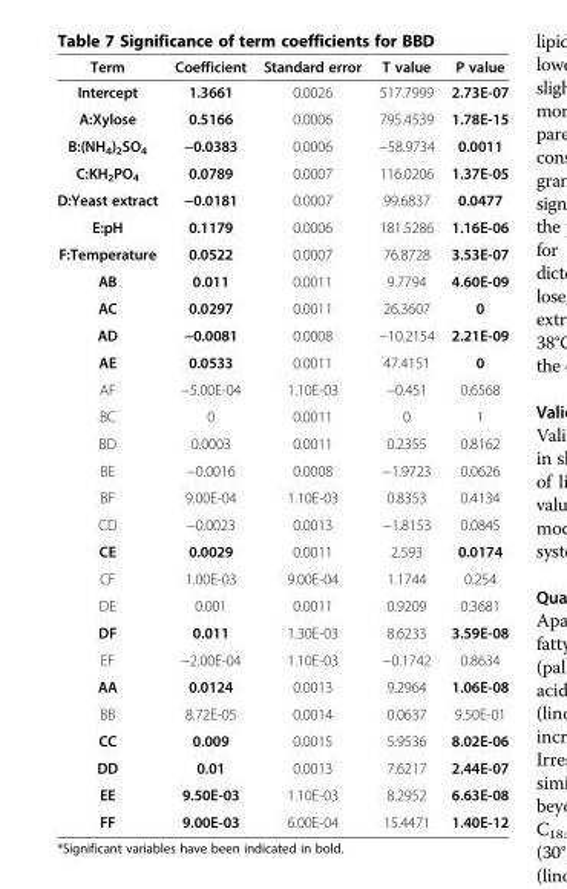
<table><thead><tr><td>Term</td><td>Coefficient</td><td>Standard error</td><td>T value</td><td>P value</td></tr></thead><tbody><tr><td>Intercept</td><td>1.3661</td><td>0.0026</td><td>517.7999</td><td>2.73E-07</td></tr><tr><td>A:Xylose</td><td>0.5166</td><td>0.0006</td><td>795.4539</td><td>1.78E-15</td></tr><tr><td>B:(NH<sub>4</sub>)<sub>2</sub>SO<sub>4</sub></td><td>−0.0383</td><td>0.0006</td><td>−58.9734</td><td>0.0011</td></tr><tr><td>C:KH<sub>2</sub>PO<sub>4</sub></td><td>0.0789</td><td>0.0007</td><td>116.0206</td><td>1.37E-05</td></tr><tr><td>D:Yeast extract</td><td>−0.0181</td><td>0.0007</td><td>99.6837</td><td>0.0477</td></tr><tr><td>E:pH</td><td>0.1179</td><td>0.0006</td><td>181.5286</td><td>1.16E-06</td></tr><tr><td>F:Temperature</td><td>0.0522</td><td>0.0007</td><td>76.8728</td><td>3.53E-07</td></tr><tr><td>AB</td><td>0.011</td><td>0.0011</td><td>9.7794</td><td>4.60E-09</td></tr><tr><td>AC</td><td>0.0297</td><td>0.0011</td><td>26.3607</td><td>0</td></tr><tr><td>AD</td><td>−0.0081</td><td>0.0008</td><td>−10.2154</td><td>2.21E-09</td></tr><tr><td>AE</td><td>0.0533</td><td>0.0011</td><td>47.4151</td><td>0</td></tr><tr><td>AF</td><td>−5.00E-04</td><td>1.10E-03</td><td>−0.451</td><td>0.6568</td></tr><tr><td>BC</td><td>0</td><td>0.0011</td><td>0</td><td>1</td></tr><tr><td>BD</td><td>0.0003</td><td>0.0011</td><td>0.2355</td><td>0.8162</td></tr><tr><td>BE</td><td>−0.0016</td><td>0.0008</td><td>−1.9723</td><td>0.0626</td></tr><tr><td>BF</td><td>9.00E-04</td><td>1.10E-03</td><td>0.8353</td><td>0.4134</td></tr><tr><td>CD</td><td>−0.0023</td><td>0.0013</td><td>−1.8153</td><td>0.0845</td></tr><tr><td>CE</td><td>0.0029</td><td>0.0011</td><td>2.593</td><td>0.0174</td></tr><tr><td>CF</td><td>1.00E-03</td><td>9.00E-04</td><td>1.1744</td><td>0.254</td></tr><tr><td>DE</td><td>0.001</td><td>0.0011</td><td>0.9209</td><td>0.3681</td></tr><tr><td>DF</td><td>0.011</td><td>1.30E-03</td><td>8.6233</td><td>3.59E-08</td></tr><tr><td>EF</td><td>−2.00E-04</td><td>1.10E-03</td><td>−0.1742</td><td>0.8634</td></tr><tr><td>AA</td><td>0.0124</td><td>0.0013</td><td>9.2964</td><td>1.06E-08</td></tr><tr><td>BB</td><td>8.72E-05</td><td>0.0014</td><td>0.0637</td><td>9.50E-01</td></tr><tr><td>CC</td><td>0.009</td><td>0.0015</td><td>5.9536</td><td>8.02E-06</td></tr><tr><td>DD</td><td>0.01</td><td>0.0013</td><td>7.6217</td><td>2.44E-07</td></tr><tr><td>EE</td><td>9.50E-03</td><td>1.10E-03</td><td>8.2952</td><td>6.63E-08</td></tr><tr><td>FF</td><td>9.00E-03</td><td>6.00E-04</td><td>15.4471</td><td>1.40E-12</td></tr></tbody></table>